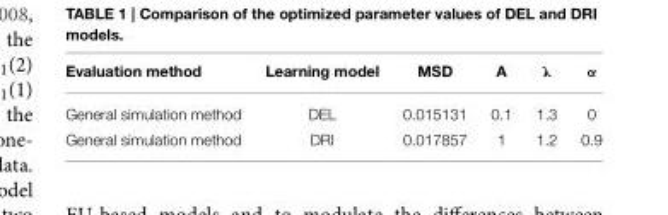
<table><thead><tr><td>Evaluation method</td><td>Learning model</td><td>MSD</td><td>A</td><td>λ</td><td>α</td></tr></thead><tbody><tr><td>General simulation method</td><td>DEL</td><td>0.015131</td><td>0.1</td><td>1.3</td><td>0</td></tr><tr><td>General simulation method</td><td>DRI</td><td>0.017857</td><td>1</td><td>1.2</td><td>0.9</td></tr></tbody></table>